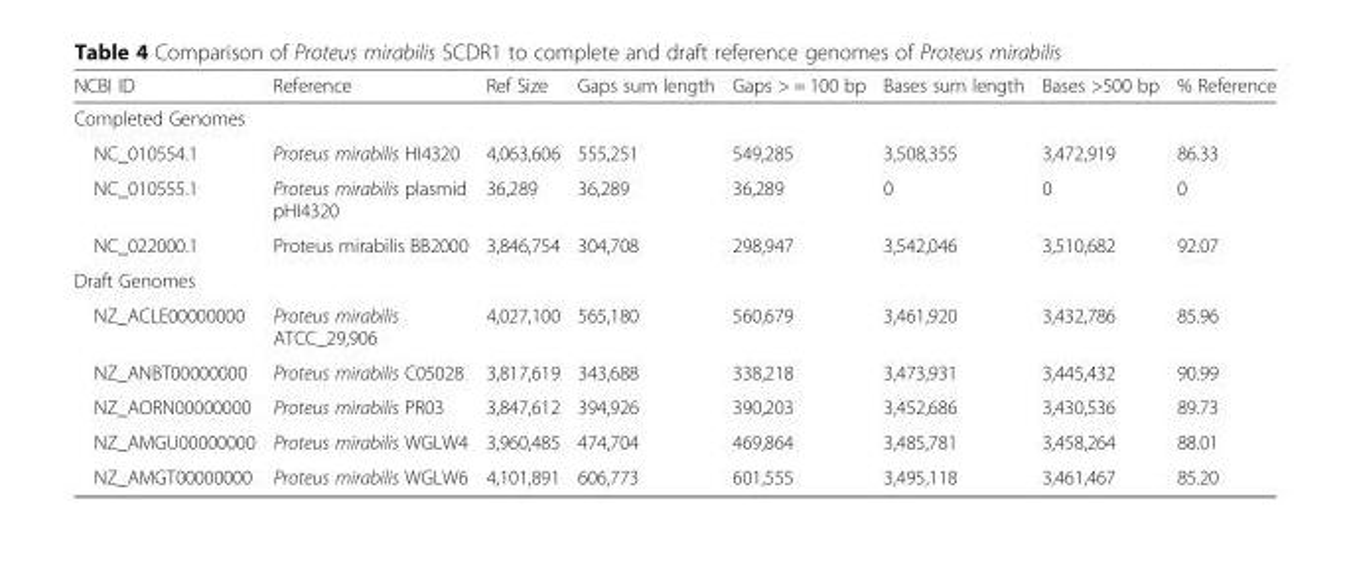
<table><thead><tr><td>NCBI ID</td><td>Reference</td><td>Ref Size</td><td>Gaps sum length</td><td>Gaps &gt; = 100 bp</td><td>Bases sum length</td><td>Bases &gt;500 bp</td><td>% Reference</td></tr></thead><tbody><tr><td colspan="8">Completed Genomes</td></tr><tr><td>NC_010554.1</td><td>Proteus mirabilis HI4320</td><td>4,063,606</td><td>555,251</td><td>549,285</td><td>3,508,355</td><td>3,472,919</td><td>86.33</td></tr><tr><td>NC_010555.1</td><td>Proteus mirabilis plasmid pHI4320</td><td>36,289</td><td>36,289</td><td>36,289</td><td>0</td><td>0</td><td>0</td></tr><tr><td>NC_022000.1</td><td>Proteus mirabilis BB2000</td><td>3,846,754</td><td>304,708</td><td>298,947</td><td>3,542,046</td><td>3,510,682</td><td>92.07</td></tr><tr><td colspan="8">Draft Genomes</td></tr><tr><td>NZ_ACLE00000000</td><td>Proteus mirabilis ATCC_29,906</td><td>4,027,100</td><td>565,180</td><td>560,679</td><td>3,461,920</td><td>3,432,786</td><td>85.96</td></tr><tr><td>NZ_ANBT00000000</td><td>Proteus mirabilis C05028</td><td>3,817,619</td><td>343,688</td><td>338,218</td><td>3,473,931</td><td>3,445,432</td><td>90.99</td></tr><tr><td>NZ_AORN00000000</td><td>Proteus mirabilis PR03</td><td>3,847,612</td><td>394,926</td><td>390,203</td><td>3,452,686</td><td>3,430,536</td><td>89.73</td></tr><tr><td>NZ_AMGU00000000</td><td>Proteus mirabilis WGLW4</td><td>3,960,485</td><td>474,704</td><td>469,864</td><td>3,485,781</td><td>3,458,264</td><td>88.01</td></tr><tr><td>NZ_AMGT00000000</td><td>Proteus mirabilis WGLW6</td><td>4,101,891</td><td>606,773</td><td>601,555</td><td>3,495,118</td><td>3,461,467</td><td>85.20</td></tr></tbody></table>